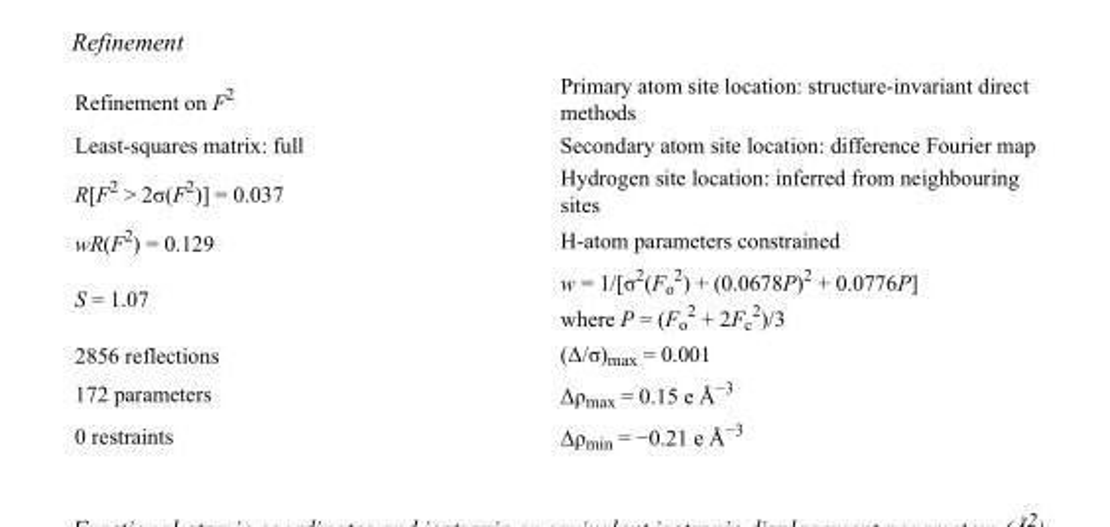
<table><tbody><tr><td>Refinement on F<sup>2</sup></td><td>Primary atom site location: structure-invariant direct methods</td></tr><tr><td>Least-squares matrix: full</td><td>Secondary atom site location: difference Fourier map</td></tr><tr><td>R[F<sup>2</sup> &gt; 2σ(F<sup>2</sup>)] = 0.037</td><td>Hydrogen site location: inferred from neighbouring sites</td></tr><tr><td>wR(F<sup>2</sup>) = 0.129</td><td>H-atom parameters constrained</td></tr><tr><td>S = 1.07</td><td>w = 1/[σ<sup>2</sup>(F<sub>o</sub> <sup>2</sup>) + (0.0678P)<sup>2</sup> + 0.0776P] where P = (F<sub>o</sub> <sup>2</sup> + 2F<sub>c</sub> <sup>2</sup>)/3</td></tr><tr><td>2856 reflections</td><td>(Δ/σ)<sub>max</sub> = 0.001</td></tr><tr><td>172 parameters</td><td>Δρ<sub>max</sub> = 0.15 e Å<sup>−3</sup></td></tr><tr><td>0 restraints</td><td>Δρ<sub>min</sub> = −0.21 e Å<sup>−3</sup></td></tr></tbody></table>